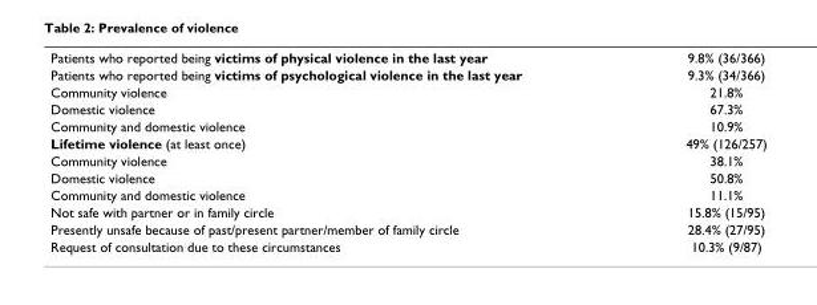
<table><tbody><tr><td>Patients who reported being victims of physical violence in the last year</td><td>9.8% (36/366)</td></tr><tr><td>Patients who reported being victims of psychological violence in the last year</td><td>9.3% (34/366)</td></tr><tr><td>Community violence</td><td>21.8%</td></tr><tr><td>Domestic violence</td><td>67.3%</td></tr><tr><td>Community and domestic violence</td><td>10.9%</td></tr><tr><td>Lifetime violence (at least once)</td><td>49% (126/257)</td></tr><tr><td>Community violence</td><td>38.1%</td></tr><tr><td>Domestic violence</td><td>50.8%</td></tr><tr><td>Community and domestic violence</td><td>11.1%</td></tr><tr><td>Not safe with partner or in family circle</td><td>15.8% (15/95)</td></tr><tr><td>Presently unsafe because of past/present partner/member of family circle</td><td>28.4% (27/95)</td></tr><tr><td>Request of consultation due to these circumstances</td><td>10.3% (9/87)</td></tr></tbody></table>